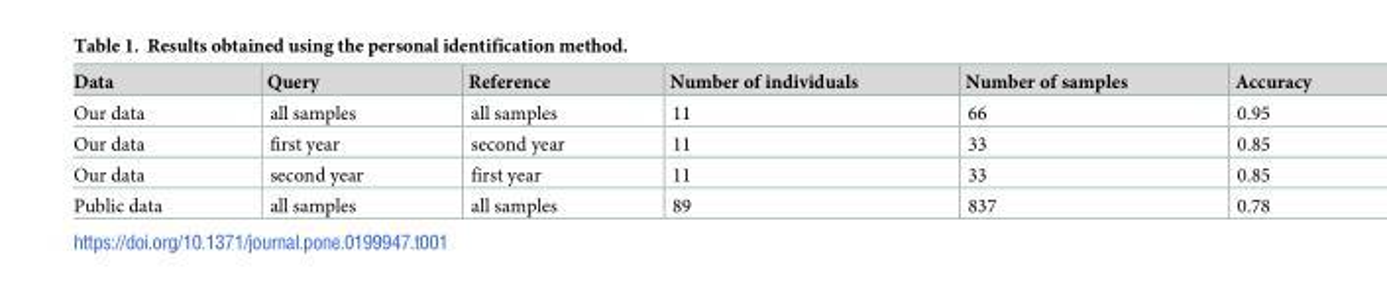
<table><thead><tr><td>Data</td><td>Query</td><td>Reference</td><td>Number of individuals</td><td>Number of samples</td><td>Accuracy</td></tr></thead><tbody><tr><td>Our data</td><td>all samples</td><td>all samples</td><td>11</td><td>66</td><td>0.95</td></tr><tr><td>Our data</td><td>first year</td><td>second year</td><td>11</td><td>33</td><td>0.85</td></tr><tr><td>Our data</td><td>second year</td><td>first year</td><td>11</td><td>33</td><td>0.85</td></tr><tr><td>Public data</td><td>all samples</td><td>all samples</td><td>89</td><td>837</td><td>0.78</td></tr></tbody></table>